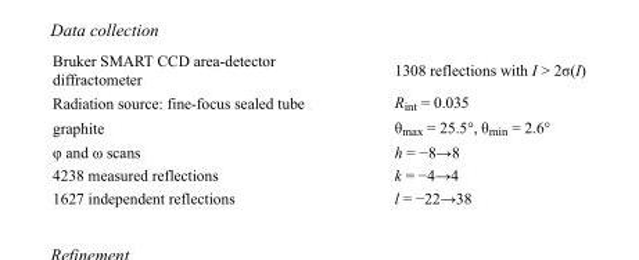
<table><tbody><tr><td>Bruker SMART CCD area-detector diffractometer</td><td>1308 reflections with I &gt; 2σ(I)</td></tr><tr><td>Radiation source: fine-focus sealed tube</td><td>R<sub>int</sub> = 0.035</td></tr><tr><td>graphite</td><td>θ<sub>max</sub> = 25.5°, θ<sub>min</sub> = 2.6°</td></tr><tr><td>φ and ω scans</td><td>h = −8→8</td></tr><tr><td>4238 measured reflections</td><td>k = −4→4</td></tr><tr><td>1627 independent reflections</td><td>l = −22→38</td></tr></tbody></table>